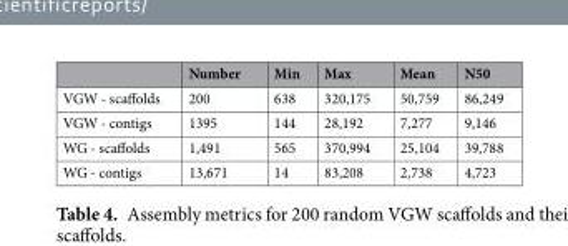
<table><thead><tr><td></td><td>Number</td><td>Min</td><td>Max</td><td>Mean</td><td>N50</td></tr></thead><tbody><tr><td>VGW - scaffolds</td><td>200</td><td>638</td><td>320,175</td><td>50,759</td><td>86,249</td></tr><tr><td>VGW - contigs</td><td>1395</td><td>144</td><td>28,192</td><td>7,277</td><td>9,146</td></tr><tr><td>WG - scaffolds</td><td>1,491</td><td>565</td><td>370,994</td><td>25,104</td><td>39,788</td></tr><tr><td>WG - contigs</td><td>13,671</td><td>14</td><td>83,208</td><td>2,738</td><td>4,723</td></tr></tbody></table>